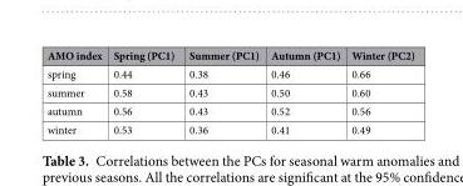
<table><thead><tr><td>AMO index</td><td>Spring (PC1)</td><td>Summer (PC1)</td><td>Autumn (PC1)</td><td>Winter (PC2)</td></tr></thead><tbody><tr><td>spring</td><td>0.44</td><td>0.38</td><td>0.46</td><td>0.66</td></tr><tr><td>summer</td><td>0.58</td><td>0.43</td><td>0.50</td><td>0.60</td></tr><tr><td>autumn</td><td>0.56</td><td>0.43</td><td>0.52</td><td>0.56</td></tr><tr><td>winter</td><td>0.53</td><td>0.36</td><td>0.41</td><td>0.49</td></tr></tbody></table>